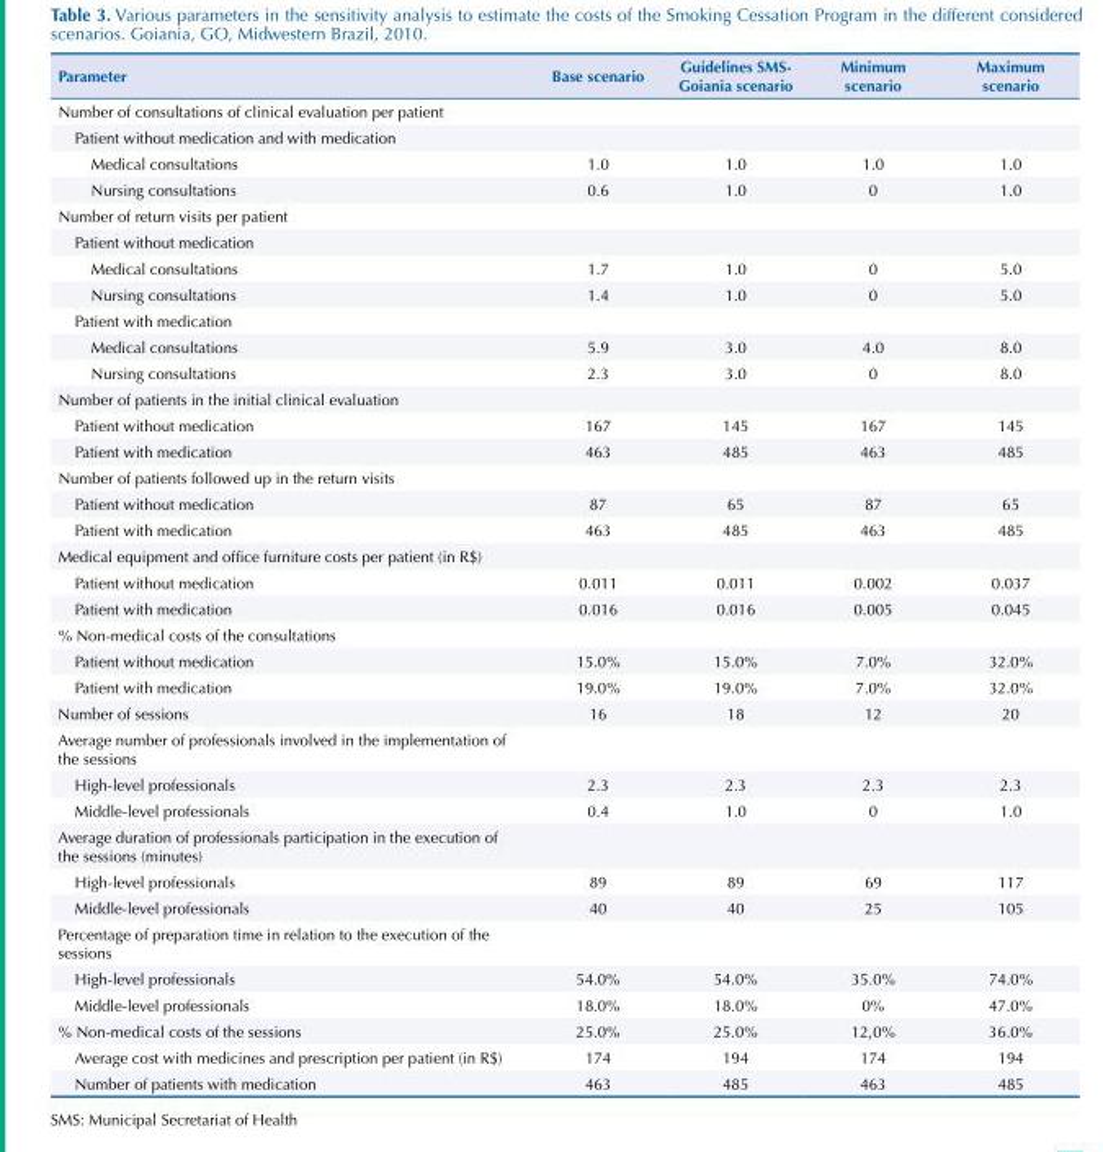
<table><thead><tr><td>Parameter</td><td>Base scenario</td><td>Guidelines SMS- Goiania scenario</td><td>Minimum scenario</td><td>Maximum scenario</td></tr></thead><tbody><tr><td colspan="5">Number of consultations of clinical evaluation per patient</td></tr><tr><td colspan="5">Patient without medication and with medication</td></tr><tr><td>Medical consultations</td><td>1.0</td><td>1.0</td><td>1.0</td><td>1.0</td></tr><tr><td>Nursing consultations</td><td>0.6</td><td>1.0</td><td>0</td><td>1.0</td></tr><tr><td colspan="5">Number of return visits per patient</td></tr><tr><td colspan="5">Patient without medication</td></tr><tr><td>Medical consultations</td><td>1.7</td><td>1.0</td><td>0</td><td>5.0</td></tr><tr><td>Nursing consultations</td><td>1.4</td><td>1.0</td><td>0</td><td>5.0</td></tr><tr><td colspan="5">Patient with medication</td></tr><tr><td>Medical consultations</td><td>5.9</td><td>3.0</td><td>4.0</td><td>8.0</td></tr><tr><td>Nursing consultations</td><td>2.3</td><td>3.0</td><td>0</td><td>8.0</td></tr><tr><td colspan="5">Number of patients in the initial clinical evaluation</td></tr><tr><td>Patient without medication</td><td>167</td><td>145</td><td>167</td><td>145</td></tr><tr><td>Patient with medication</td><td>463</td><td>485</td><td>463</td><td>485</td></tr><tr><td colspan="5">Number of patients followed up in the return visits</td></tr><tr><td>Patient without medication</td><td>87</td><td>65</td><td>87</td><td>65</td></tr><tr><td>Patient with medication</td><td>463</td><td>485</td><td>463</td><td>485</td></tr><tr><td colspan="5">Medical equipment and office furniture costs per patient (in R$)</td></tr><tr><td>Patient without medication</td><td>0.011</td><td>0.011</td><td>0.002</td><td>0.037</td></tr><tr><td>Patient with medication</td><td>0.016</td><td>0.016</td><td>0.005</td><td>0.045</td></tr><tr><td colspan="5">% Non-medical costs of the consultations</td></tr><tr><td>Patient without medication</td><td>15.0%</td><td>15.0%</td><td>7.0%</td><td>32.0%</td></tr><tr><td>Patient with medication</td><td>19.0%</td><td>19.0%</td><td>7.0%</td><td>32.0%</td></tr><tr><td>Number of sessions</td><td>16</td><td>18</td><td>12</td><td>20</td></tr><tr><td colspan="5">Average number of professionals involved in the implementation of the sessions</td></tr><tr><td>High-level professionals</td><td>2.3</td><td>2.3</td><td>2.3</td><td>2.3</td></tr><tr><td>Middle-level professionals</td><td>0.4</td><td>1.0</td><td>0</td><td>1.0</td></tr><tr><td colspan="5">Average duration of professionals participation in the execution of the sessions (minutes)</td></tr><tr><td>High-level professionals</td><td>89</td><td>89</td><td>69</td><td>117</td></tr><tr><td>Middle-level professionals</td><td>40</td><td>40</td><td>25</td><td>105</td></tr><tr><td colspan="5">Percentage of preparation time in relation to the execution of the sessions</td></tr><tr><td>High-level professionals</td><td>54.0%</td><td>54.0%</td><td>35.0%</td><td>74.0%</td></tr><tr><td>Middle-level professionals</td><td>18.0%</td><td>18.0%</td><td>0%</td><td>47.0%</td></tr><tr><td>% Non-medical costs of the sessions</td><td>25.0%</td><td>25.0%</td><td>12,0%</td><td>36.0%</td></tr><tr><td>Average cost with medicines and prescription per patient (in R$)</td><td>174</td><td>194</td><td>174</td><td>194</td></tr><tr><td>Number of patients with medication</td><td>463</td><td>485</td><td>463</td><td>485</td></tr></tbody></table>